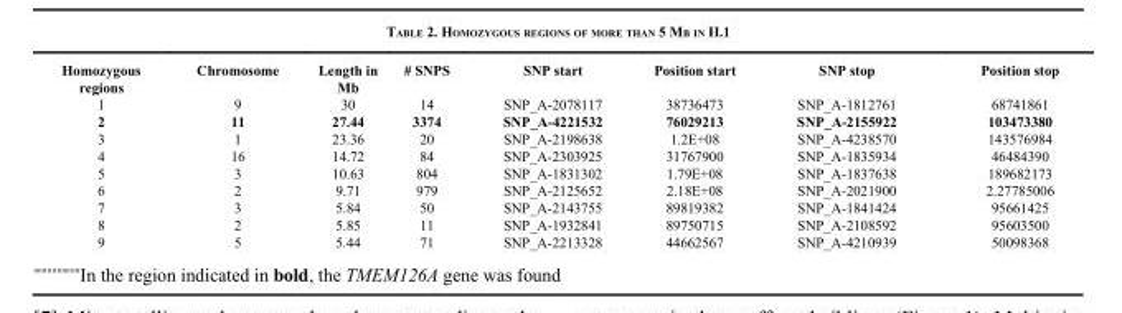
<table><thead><tr><td>Homozygous regions</td><td>Chromosome</td><td>Length in Mb</td><td># SNPS</td><td>SNP start</td><td>Position start</td><td>SNP stop</td><td>Position stop</td></tr></thead><tbody><tr><td>1</td><td>9</td><td>30</td><td>14</td><td>SNP_A-2078117</td><td>38736473</td><td>SNP_A-1812761</td><td>68741861</td></tr><tr><td>2</td><td>11</td><td>27.44</td><td>3374</td><td>SNP_A-4221532</td><td>76029213</td><td>SNP_A-2155922</td><td>103473380</td></tr><tr><td>3</td><td>1</td><td>23.36</td><td>20</td><td>SNP_A-2198638</td><td>1.2E+08</td><td>SNP_A-4238570</td><td>143576984</td></tr><tr><td>4</td><td>16</td><td>14.72</td><td>84</td><td>SNP_A-2303925</td><td>31767900</td><td>SNP_A-1835934</td><td>46484390</td></tr><tr><td>5</td><td>3</td><td>10.63</td><td>804</td><td>SNP_A-1831302</td><td>1.79E+08</td><td>SNP_A-1837638</td><td>189682173</td></tr><tr><td>6</td><td>2</td><td>9.71</td><td>979</td><td>SNP_A-2125652</td><td>2.18E+08</td><td>SNP_A-2021900</td><td>2.27785006</td></tr><tr><td>7</td><td>3</td><td>5.84</td><td>50</td><td>SNP_A-2143755</td><td>89819382</td><td>SNP_A-1841424</td><td>95661425</td></tr><tr><td>8</td><td>2</td><td>5.85</td><td>11</td><td>SNP_A-1932841</td><td>89750715</td><td>SNP_A-2108592</td><td>95603500</td></tr><tr><td>9</td><td>5</td><td>5.44</td><td>71</td><td>SNP_A-2213328</td><td>44662567</td><td>SNP_A-4210939</td><td>50098368</td></tr></tbody></table>